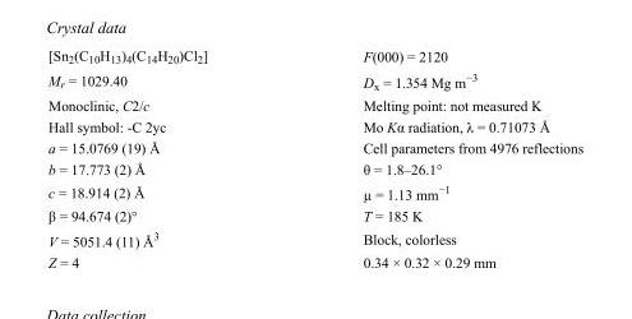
<table><tbody><tr><td>[Sn<sub>2</sub>(C<sub>10</sub>H<sub>13</sub>)<sub>4</sub>(C<sub>14</sub>H<sub>20</sub>)Cl<sub>2</sub>]</td><td>F(000) = 2120</td></tr><tr><td>M<sub>r</sub> = 1029.40</td><td>D<sub>x</sub> = 1.354 Mg m<sup>−3</sup></td></tr><tr><td>Monoclinic, C2/c</td><td>Melting point: not measured K</td></tr><tr><td>Hall symbol: -C 2yc</td><td>Mo Kα radiation, λ = 0.71073 Å</td></tr><tr><td>a = 15.0769 (19) Å</td><td>Cell parameters from 4976 reflections</td></tr><tr><td>b = 17.773 (2) Å</td><td>θ = 1.8–26.1°</td></tr><tr><td>c = 18.914 (2) Å</td><td>µ = 1.13 mm<sup>−1</sup></td></tr><tr><td>β = 94.674 (2)°</td><td>T = 185 K</td></tr><tr><td>V = 5051.4 (11) Å<sup>3</sup></td><td>Block, colorless</td></tr><tr><td>Z = 4</td><td>0.34 × 0.32 × 0.29 mm</td></tr></tbody></table>